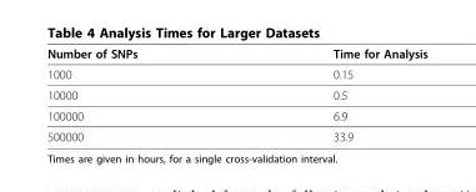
<table><thead><tr><td>Number of SNPs</td><td>Time for Analysis</td></tr></thead><tbody><tr><td>1000</td><td>0.15</td></tr><tr><td>10000</td><td>0.5</td></tr><tr><td>100000</td><td>6.9</td></tr><tr><td>500000</td><td>33.9</td></tr></tbody></table>